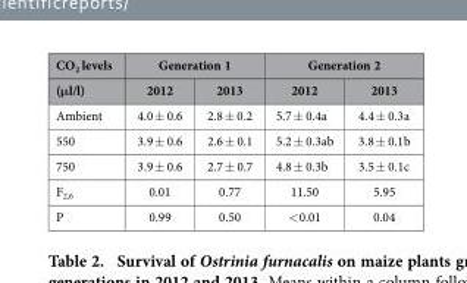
<table><thead><tr><td rowspan="2">CO<sub>2</sub> levels (μl/l)</td><td colspan="2">Generation 1</td><td colspan="2">Generation 2</td></tr><tr><td>2012</td><td>2013</td><td>2012</td><td>2013</td></tr></thead><tbody><tr><td>Ambient</td><td>4.0 ± 0.6</td><td>2.8 ± 0.2</td><td>5.7 ± 0.4a</td><td>4.4 ± 0.3a</td></tr><tr><td>550</td><td>3.9 ± 0.6</td><td>2.6 ± 0.1</td><td>5.2 ± 0.3ab</td><td>3.8 ± 0.1b</td></tr><tr><td>750</td><td>3.9 ± 0.6</td><td>2.7 ± 0.7</td><td>4.8 ± 0.3b</td><td>3.5 ± 0.1c</td></tr><tr><td>F<sub>2,6</sub></td><td>0.01</td><td>0.77</td><td>11.50</td><td>5.95</td></tr><tr><td>P</td><td>0.99</td><td>0.50</td><td>&lt; 0.01</td><td>0.04</td></tr></tbody></table>